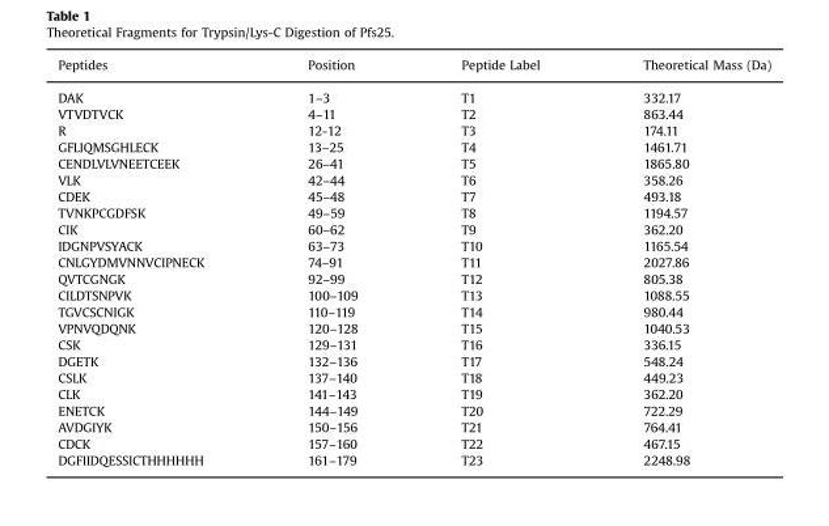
<table><thead><tr><td>Peptides</td><td>Position</td><td>Peptide Label</td><td>Theoretical Mass (Da)</td></tr></thead><tbody><tr><td>DAK</td><td>1–3</td><td>T1</td><td>332.17</td></tr><tr><td>VTVDTVCK</td><td>4–11</td><td>T2</td><td>863.44</td></tr><tr><td>R</td><td>12-12</td><td>T3</td><td>174.11</td></tr><tr><td>GFLIQMSGHLECK</td><td>13–25</td><td>T4</td><td>1461.71</td></tr><tr><td>CENDLVLVNEETCEEK</td><td>26–41</td><td>T5</td><td>1865.80</td></tr><tr><td>VLK</td><td>42–44</td><td>T6</td><td>358.26</td></tr><tr><td>CDEK</td><td>45–48</td><td>T7</td><td>493.18</td></tr><tr><td>TVNKPCGDFSK</td><td>49–59</td><td>T8</td><td>1194.57</td></tr><tr><td>CIK</td><td>60–62</td><td>T9</td><td>362.20</td></tr><tr><td>IDGNPVSYACK</td><td>63–73</td><td>T10</td><td>1165.54</td></tr><tr><td>CNLGYDMVNNVCIPNECK</td><td>74–91</td><td>T11</td><td>2027.86</td></tr><tr><td>QVTCGNGK</td><td>92–99</td><td>T12</td><td>805.38</td></tr><tr><td>CILDTSNPVK</td><td>100–109</td><td>T13</td><td>1088.55</td></tr><tr><td>TGVCSCNIGK</td><td>110–119</td><td>T14</td><td>980.44</td></tr><tr><td>VPNVQDQNK</td><td>120–128</td><td>T15</td><td>1040.53</td></tr><tr><td>CSK</td><td>129–131</td><td>T16</td><td>336.15</td></tr><tr><td>DGETK</td><td>132–136</td><td>T17</td><td>548.24</td></tr><tr><td>CSLK</td><td>137–140</td><td>T18</td><td>449.23</td></tr><tr><td>CLK</td><td>141–143</td><td>T19</td><td>362.20</td></tr><tr><td>ENETCK</td><td>144–149</td><td>T20</td><td>722.29</td></tr><tr><td>AVDGIYK</td><td>150–156</td><td>T21</td><td>764.41</td></tr><tr><td>CDCK</td><td>157–160</td><td>T22</td><td>467.15</td></tr><tr><td>DGFIIDQESSICTHHHHHH</td><td>161–179</td><td>T23</td><td>2248.98</td></tr></tbody></table>